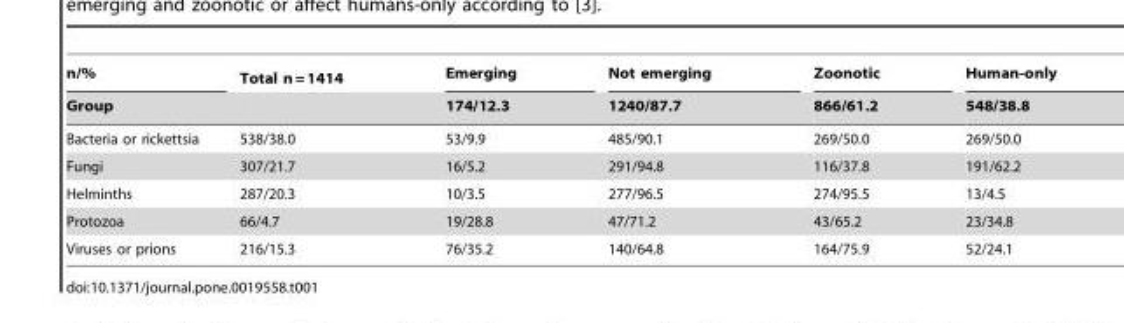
<table><thead><tr><td rowspan="2">n/% Group</td><td rowspan="2">Total n = 1414</td><td rowspan="2">Emerging 174/12.3</td><td rowspan="2">Not emerging 1240/87.7</td><td rowspan="2">Zoonotic 866/61.2</td><td rowspan="2">Human-only 548/38.8</td></tr><tr></tr></thead><tbody><tr><td>Bacteria or rickettsia</td><td>538/38.0</td><td>53/9.9</td><td>485/90.1</td><td>269/50.0</td><td>269/50.0</td></tr><tr><td>Fungi</td><td>307/21.7</td><td>16/5.2</td><td>291/94.8</td><td>116/37.8</td><td>191/62.2</td></tr><tr><td>Helminths</td><td>287/20.3</td><td>10/3.5</td><td>277/96.5</td><td>274/95.5</td><td>13/4.5</td></tr><tr><td>Protozoa</td><td>66/4.7</td><td>19/28.8</td><td>47/71.2</td><td>43/65.2</td><td>23/34.8</td></tr><tr><td>Viruses or prions</td><td>216/15.3</td><td>76/35.2</td><td>140/64.8</td><td>164/75.9</td><td>52/24.1</td></tr></tbody></table>